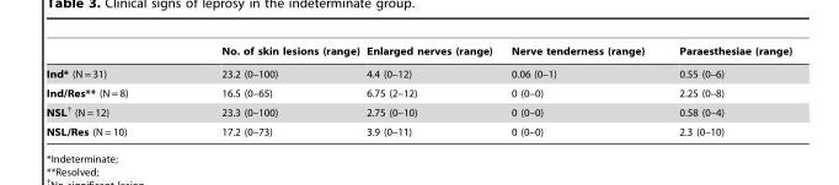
<table><thead><tr><td></td><td>No. of skin lesions (range)</td><td>Enlarged nerves (range)</td><td>Nerve tenderness (range)</td><td>Paraesthesiae (range)</td></tr></thead><tbody><tr><td>Ind* (N = 31)</td><td>23.2 (0–100)</td><td>4.4 (0–12)</td><td>0.06 (0–1)</td><td>0.55 (0–6)</td></tr><tr><td>Ind/Res** (N = 8)</td><td>16.5 (0–65)</td><td>6.75 (2–12)</td><td>0 (0–0)</td><td>2.25 (0–8)</td></tr><tr><td>NSL† (N = 12)</td><td>23.3 (0–100)</td><td>2.75 (0–10)</td><td>0 (0–0)</td><td>0.58 (0–4)</td></tr><tr><td>NSL/Res (N = 10)</td><td>17.2 (0–73)</td><td>3.9 (0–11)</td><td>0 (0–0)</td><td>2.3 (0–10)</td></tr></tbody></table>